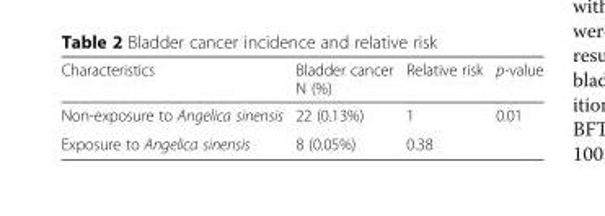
<table><thead><tr><td>Characteristics</td><td>Bladder cancer N (%)</td><td>Relative risk</td><td>p-value</td></tr></thead><tbody><tr><td>Non-exposure to Angelica sinensis</td><td>22 (0.13%)</td><td>1</td><td>0.01</td></tr><tr><td>Exposure to Angelica sinensis</td><td>8 (0.05%)</td><td>0.38</td><td></td></tr></tbody></table>